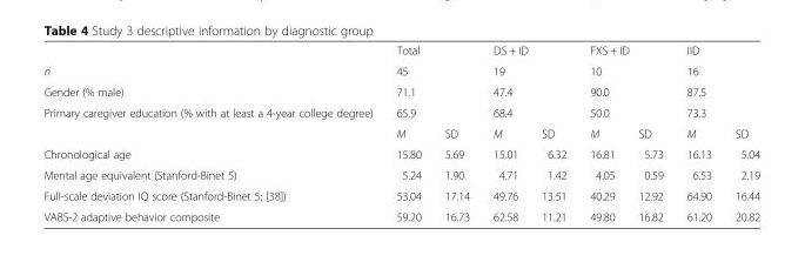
<table><thead><tr><td></td><td colspan="2">Total</td><td colspan="2">DS + ID</td><td colspan="2">FXS + ID</td><td colspan="2">IID</td></tr></thead><tbody><tr><td>n</td><td colspan="2">45</td><td colspan="2">19</td><td colspan="2">10</td><td colspan="2">16</td></tr><tr><td>Gender (% male)</td><td colspan="2">71.1</td><td colspan="2">47.4</td><td colspan="2">90.0</td><td colspan="2">87.5</td></tr><tr><td rowspan="2">Primary caregiver education (% with at least a 4-year college degree)</td><td colspan="2">65.9</td><td colspan="2">68.4</td><td colspan="2">50.0</td><td colspan="2">73.3</td></tr><tr><td>M</td><td>SD</td><td>M</td><td>SD</td><td>M</td><td>SD</td><td>M</td><td>SD</td></tr><tr><td>Chronological age</td><td>15.80</td><td>5.69</td><td>15.01</td><td>6.32</td><td>16.81</td><td>5.73</td><td>16.13</td><td>5.04</td></tr><tr><td>Mental age equivalent (Stanford-Binet 5)</td><td>5.24</td><td>1.90</td><td>4.71</td><td>1.42</td><td>4.05</td><td>0.59</td><td>6.53</td><td>2.19</td></tr><tr><td>Full-scale deviation IQ score (Stanford-Binet 5; [38])</td><td>53.04</td><td>17.14</td><td>49.76</td><td>13.51</td><td>40.29</td><td>12.92</td><td>64.90</td><td>16.44</td></tr><tr><td>VABS-2 adaptive behavior composite</td><td>59.20</td><td>16.73</td><td>62.58</td><td>11.21</td><td>49.80</td><td>16.82</td><td>61.20</td><td>20.82</td></tr></tbody></table>